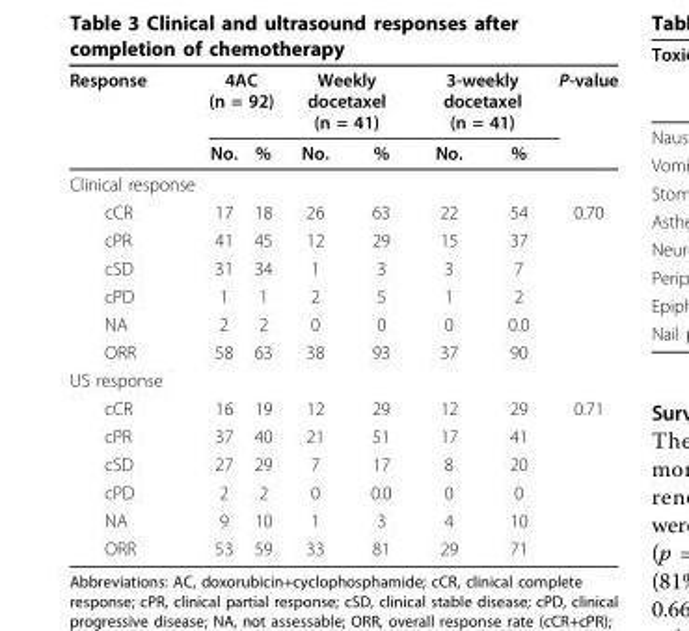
<table><thead><tr><td rowspan="2">Response</td><td colspan="2">4AC (n = 92)</td><td colspan="2">Weekly docetaxel (n = 41)</td><td colspan="2">3-weekly docetaxel (n = 41)</td><td rowspan="2">P-value</td></tr><tr><td>No.</td><td>%</td><td>No.</td><td>%</td><td>No.</td><td>%</td></tr></thead><tbody><tr><td colspan="8">Clinical response</td></tr><tr><td>cCR</td><td>17</td><td>18</td><td>26</td><td>63</td><td>22</td><td>54</td><td>0.70</td></tr><tr><td>cPR</td><td>41</td><td>45</td><td>12</td><td>29</td><td>15</td><td>37</td><td></td></tr><tr><td>cSD</td><td>31</td><td>34</td><td>1</td><td>3</td><td>3</td><td>7</td><td></td></tr><tr><td>cPD</td><td>1</td><td>1</td><td>2</td><td>5</td><td>1</td><td>2</td><td></td></tr><tr><td>NA</td><td>2</td><td>2</td><td>0</td><td>0</td><td>0</td><td>0.0</td><td></td></tr><tr><td>ORR</td><td>58</td><td>63</td><td>38</td><td>93</td><td>37</td><td>90</td><td></td></tr><tr><td colspan="8">US response</td></tr><tr><td>cCR</td><td>16</td><td>19</td><td>12</td><td>29</td><td>12</td><td>29</td><td>0.71</td></tr><tr><td>cPR</td><td>37</td><td>40</td><td>21</td><td>51</td><td>17</td><td>41</td><td></td></tr><tr><td>cSD</td><td>27</td><td>29</td><td>7</td><td>17</td><td>8</td><td>20</td><td></td></tr><tr><td>cPD</td><td>2</td><td>2</td><td>0</td><td>0.0</td><td>0</td><td>0</td><td></td></tr><tr><td>NA</td><td>9</td><td>10</td><td>1</td><td>3</td><td>4</td><td>10</td><td></td></tr><tr><td>ORR</td><td>53</td><td>59</td><td>33</td><td>81</td><td>29</td><td>71</td><td></td></tr></tbody></table>